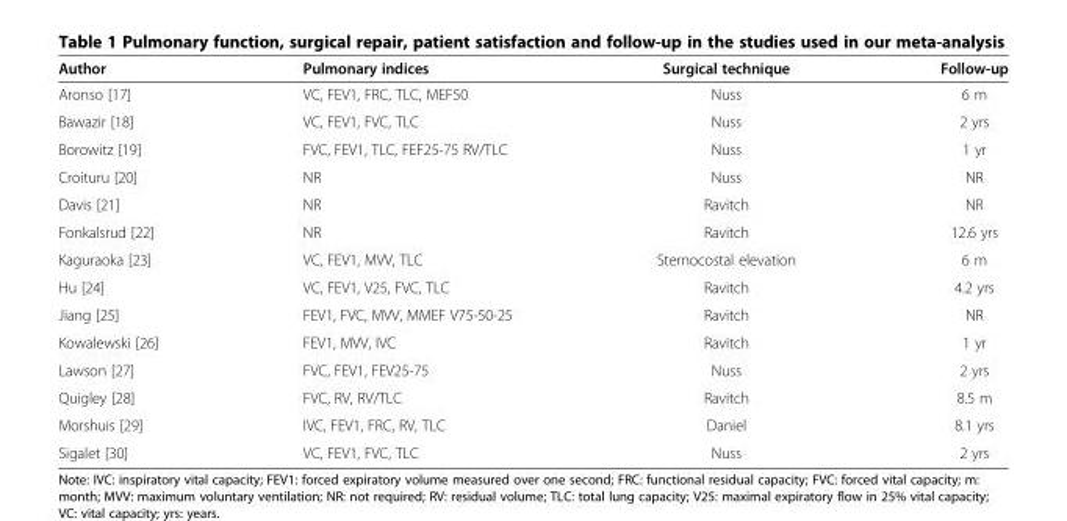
<table><thead><tr><td>Author</td><td>Pulmonary indices</td><td>Surgical technique</td><td>Follow-up</td></tr></thead><tbody><tr><td>Aronso [17]</td><td>VC, FEV1, FRC, TLC, MEF50</td><td>Nuss</td><td>6 m</td></tr><tr><td>Bawazir [18]</td><td>VC, FEV1, FVC, TLC</td><td>Nuss</td><td>2 yrs</td></tr><tr><td>Borowitz [19]</td><td>FVC, FEV1, TLC, FEF25-75 RV/TLC</td><td>Nuss</td><td>1 yr</td></tr><tr><td>Croituru [20]</td><td>NR</td><td>Nuss</td><td>NR</td></tr><tr><td>Davis [21]</td><td>NR</td><td>Ravitch</td><td>NR</td></tr><tr><td>Fonkalsrud [22]</td><td>NR</td><td>Ravitch</td><td>12.6 yrs</td></tr><tr><td>Kaguraoka [23]</td><td>VC, FEV1, MVV, TLC</td><td>Sternocostal elevation</td><td>6 m</td></tr><tr><td>Hu [24]</td><td>VC, FEV1, V25, FVC, TLC</td><td>Ravitch</td><td>4.2 yrs</td></tr><tr><td>Jiang [25]</td><td>FEV1, FVC, MVV, MMEF V75-50-25</td><td>Ravitch</td><td>NR</td></tr><tr><td>Kowalewski [26]</td><td>FEV1, MVV, IVC</td><td>Ravitch</td><td>1 yr</td></tr><tr><td>Lawson [27]</td><td>FVC, FEV1, FEV25-75</td><td>Nuss</td><td>2 yrs</td></tr><tr><td>Quigley [28]</td><td>FVC, RV, RV/TLC</td><td>Ravitch</td><td>8.5 m</td></tr><tr><td>Morshuis [29]</td><td>IVC, FEV1, FRC, RV, TLC</td><td>Daniel</td><td>8.1 yrs</td></tr><tr><td>Sigalet [30]</td><td>VC, FEV1, FVC, TLC</td><td>Nuss</td><td>2 yrs</td></tr></tbody></table>